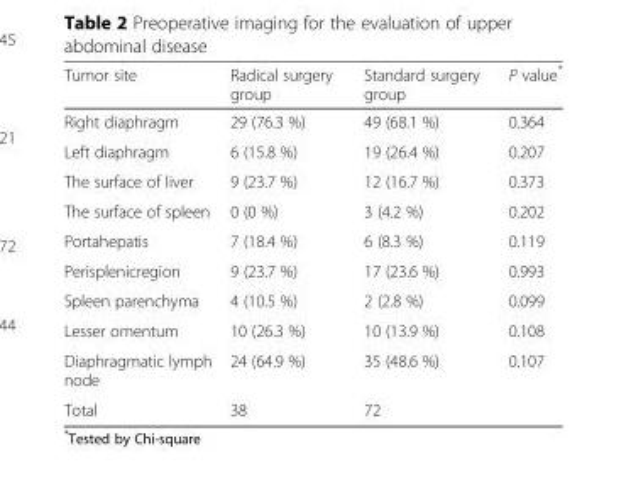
<table><thead><tr><td>Tumor site</td><td>Radical surgery group</td><td>Standard surgery group</td><td>P value*</td></tr></thead><tbody><tr><td>Right diaphragm</td><td>29 (76.3 %)</td><td>49 (68.1 %)</td><td>0.364</td></tr><tr><td>Left diaphragm</td><td>6 (15.8 %)</td><td>19 (26.4 %)</td><td>0.207</td></tr><tr><td>The surface of liver</td><td>9 (23.7 %)</td><td>12 (16.7 %)</td><td>0.373</td></tr><tr><td>The surface of spleen</td><td>0 (0 %)</td><td>3 (4.2 %)</td><td>0.202</td></tr><tr><td>Portahepatis</td><td>7 (18.4 %)</td><td>6 (8.3 %)</td><td>0.119</td></tr><tr><td>Perisplenicregion</td><td>9 (23.7 %)</td><td>17 (23.6 %)</td><td>0.993</td></tr><tr><td>Spleen parenchyma</td><td>4 (10.5 %)</td><td>2 (2.8 %)</td><td>0.099</td></tr><tr><td>Lesser omentum</td><td>10 (26.3 %)</td><td>10 (13.9 %)</td><td>0.108</td></tr><tr><td>Diaphragmatic lymph node</td><td>24 (64.9 %)</td><td>35 (48.6 %)</td><td>0.107</td></tr><tr><td>Total</td><td>38</td><td>72</td><td></td></tr></tbody></table>